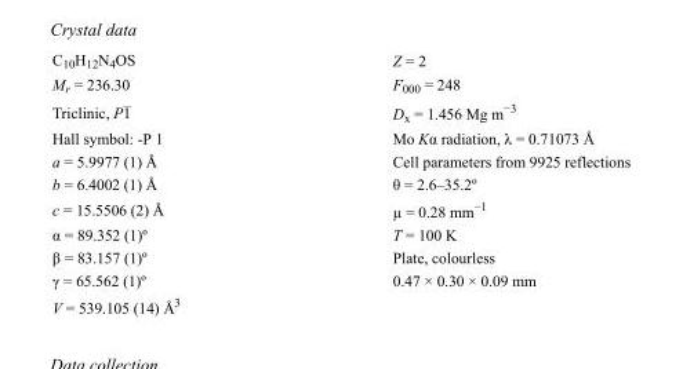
<table><tbody><tr><td>C<sub>10</sub>H<sub>12</sub>N<sub>4</sub>OS</td><td>Z = 2</td></tr><tr><td>M<sub>r</sub> = 236.30</td><td>F000 = 248</td></tr><tr><td>Triclinic, P1</td><td>D<sub>x</sub> = 1.456 Mg m<sup>−3</sup></td></tr><tr><td>Hall symbol: -P 1</td><td>Mo Kα radiation, λ = 0.71073 Å</td></tr><tr><td>a = 5.9977 (1) Å</td><td>Cell parameters from 9925 reflections</td></tr><tr><td>b = 6.4002 (1) Å</td><td>θ = 2.6–35.2º</td></tr><tr><td>c = 15.5506 (2) Å</td><td>µ = 0.28 mm<sup>−1</sup></td></tr><tr><td>α = 89.352 (1)º</td><td>T = 100 K</td></tr><tr><td>β = 83.157 (1)º</td><td>Plate, colourless</td></tr><tr><td>γ = 65.562 (1)º</td><td>0.47 × 0.30 × 0.09 mm</td></tr><tr><td>V = 539.105 (14) Å3</td><td></td></tr></tbody></table>